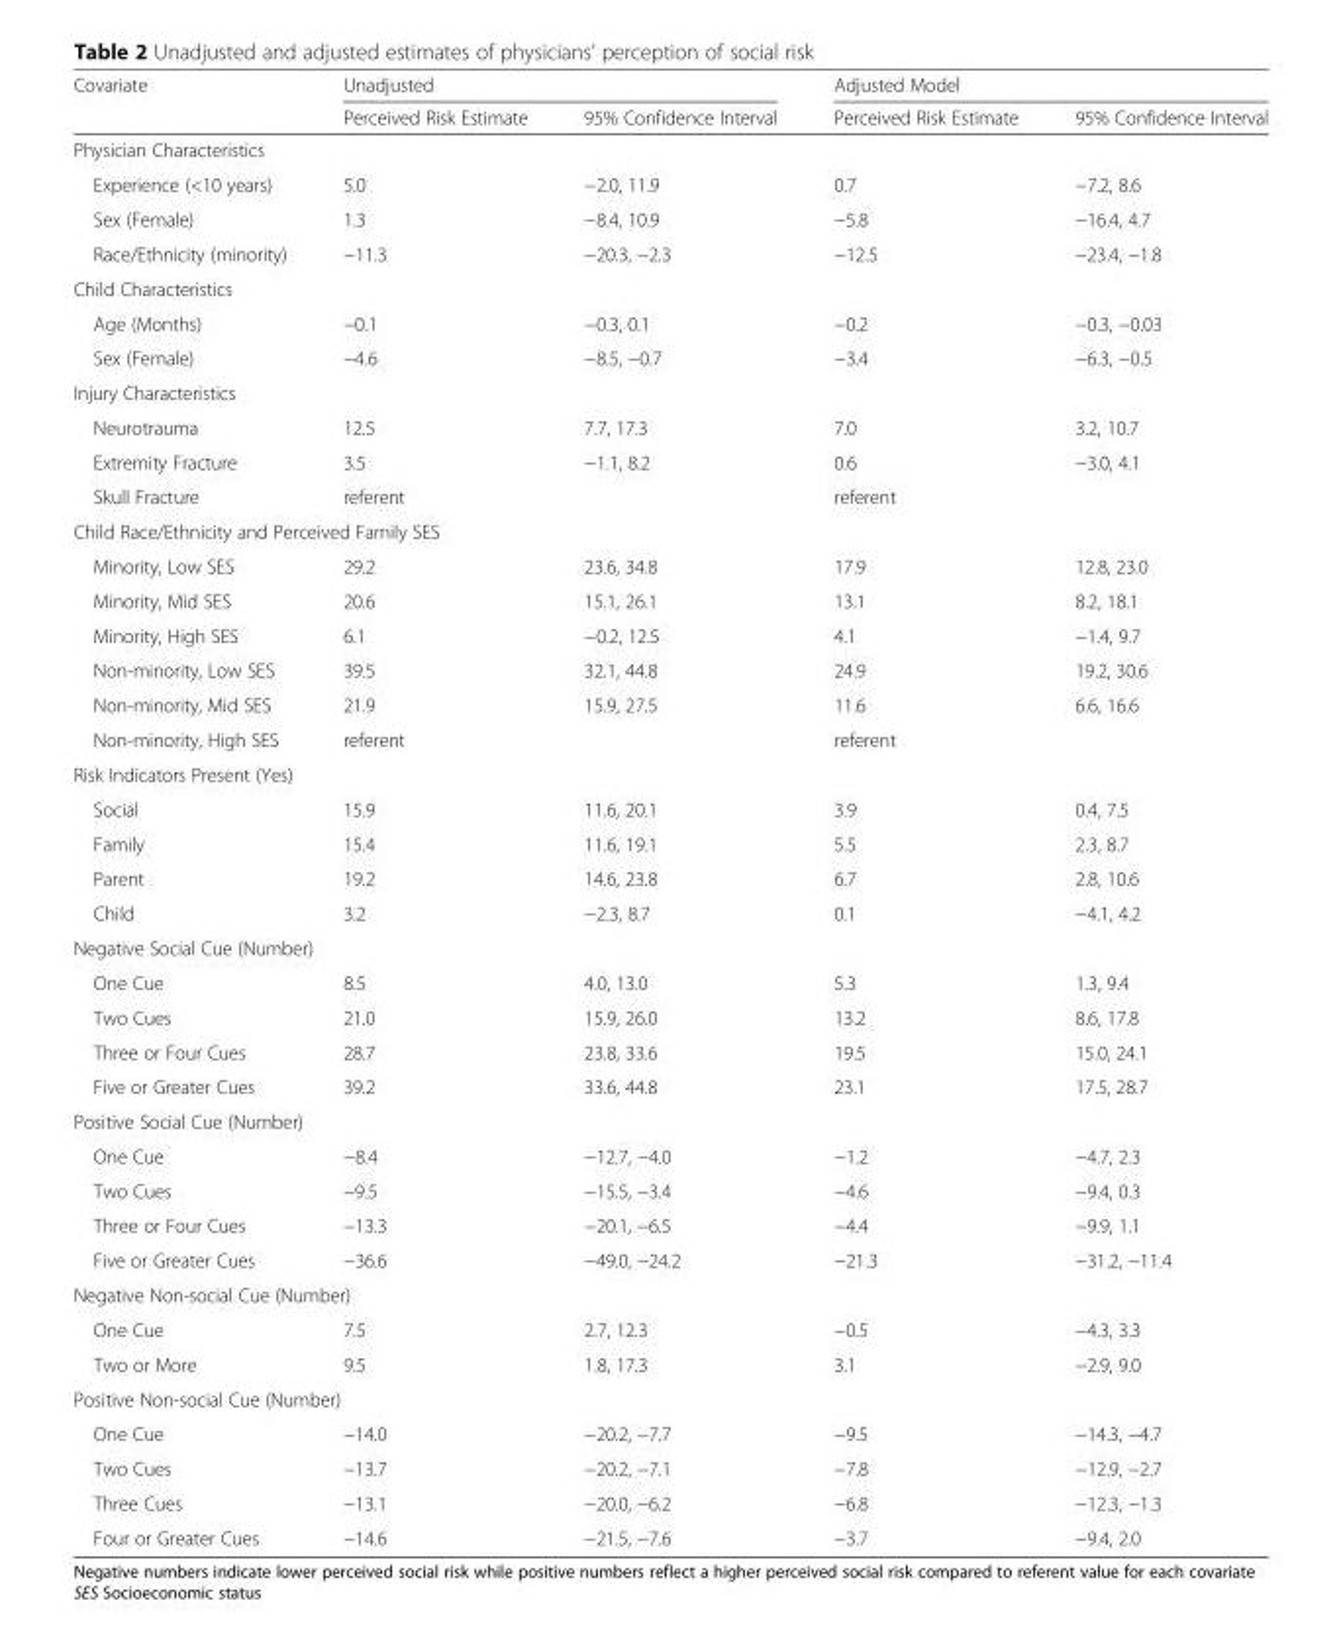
<table><thead><tr><td rowspan="2">Covariate</td><td colspan="2">Unadjusted</td><td colspan="2">Adjusted Model</td></tr><tr><td>Perceived Risk Estimate</td><td>95% Confidence Interval</td><td>Perceived Risk Estimate</td><td>95% Confidence Interval</td></tr></thead><tbody><tr><td colspan="5">Physician Characteristics</td></tr><tr><td>Experience (&lt;10 years)</td><td>5.0</td><td>−2.0, 11.9</td><td>0.7</td><td>−7.2, 8.6</td></tr><tr><td>Sex (Female)</td><td>1.3</td><td>−8.4, 10.9</td><td>−5.8</td><td>−16.4, 4.7</td></tr><tr><td>Race/Ethnicity (minority)</td><td>−11.3</td><td>−20.3, −2.3</td><td>−12.5</td><td>−23.4, −1.8</td></tr><tr><td colspan="5">Child Characteristics</td></tr><tr><td>Age (Months)</td><td>−0.1</td><td>−0.3, 0.1</td><td>−0.2</td><td>−0.3, −0.03</td></tr><tr><td>Sex (Female)</td><td>−4.6</td><td>−8.5, −0.7</td><td>−3.4</td><td>−6.3, −0.5</td></tr><tr><td colspan="5">Injury Characteristics</td></tr><tr><td>Neurotrauma</td><td>12.5</td><td>7.7, 17.3</td><td>7.0</td><td>3.2, 10.7</td></tr><tr><td>Extremity Fracture</td><td>3.5</td><td>−1.1, 8.2</td><td>0.6</td><td>−3.0, 4.1</td></tr><tr><td>Skull Fracture</td><td colspan="2">referent</td><td colspan="2">referent</td></tr><tr><td colspan="5">Child Race/Ethnicity and Perceived Family SES</td></tr><tr><td>Minority, Low SES</td><td>29.2</td><td>23.6, 34.8</td><td>17.9</td><td>12.8, 23.0</td></tr><tr><td>Minority, Mid SES</td><td>20.6</td><td>15.1, 26.1</td><td>13.1</td><td>8.2, 18.1</td></tr><tr><td>Minority, High SES</td><td>6.1</td><td>−0.2, 12.5</td><td>4.1</td><td>−1.4, 9.7</td></tr><tr><td>Non-minority, Low SES</td><td>39.5</td><td>32.1, 44.8</td><td>24.9</td><td>19.2, 30.6</td></tr><tr><td>Non-minority, Mid SES</td><td>21.9</td><td>15.9, 27.5</td><td>11.6</td><td>6.6, 16.6</td></tr><tr><td>Non-minority, High SES</td><td colspan="2">referent</td><td colspan="2">referent</td></tr><tr><td colspan="5">Risk Indicators Present (Yes)</td></tr><tr><td>Social</td><td>15.9</td><td>11.6, 20.1</td><td>3.9</td><td>0.4, 7.5</td></tr><tr><td>Family</td><td>15.4</td><td>11.6, 19.1</td><td>5.5</td><td>2.3, 8.7</td></tr><tr><td>Parent</td><td>19.2</td><td>14.6, 23.8</td><td>6.7</td><td>2.8, 10.6</td></tr><tr><td>Child</td><td>3.2</td><td>−2.3, 8.7</td><td>0.1</td><td>−4.1, 4.2</td></tr><tr><td colspan="5">Negative Social Cue (Number)</td></tr><tr><td>One Cue</td><td>8.5</td><td>4.0, 13.0</td><td>5.3</td><td>1.3, 9.4</td></tr><tr><td>Two Cues</td><td>21.0</td><td>15.9, 26.0</td><td>13.2</td><td>8.6, 17.8</td></tr><tr><td>Three or Four Cues</td><td>28.7</td><td>23.8, 33.6</td><td>19.5</td><td>15.0, 24.1</td></tr><tr><td>Five or Greater Cues</td><td>39.2</td><td>33.6, 44.8</td><td>23.1</td><td>17.5, 28.7</td></tr><tr><td colspan="5">Positive Social Cue (Number)</td></tr><tr><td>One Cue</td><td>−8.4</td><td>−12.7, −4.0</td><td>−1.2</td><td>−4.7, 2.3</td></tr><tr><td>Two Cues</td><td>−9.5</td><td>−15.5, −3.4</td><td>−4.6</td><td>−9.4, 0.3</td></tr><tr><td>Three or Four Cues</td><td>−13.3</td><td>−20.1, −6.5</td><td>−4.4</td><td>−9.9, 1.1</td></tr><tr><td>Five or Greater Cues</td><td>−36.6</td><td>−49.0, −24.2</td><td>−21.3</td><td>−31.2, −11.4</td></tr><tr><td colspan="5">Negative Non-social Cue (Number)</td></tr><tr><td>One Cue</td><td>7.5</td><td>2.7, 12.3</td><td>−0.5</td><td>−4.3, 3.3</td></tr><tr><td>Two or More</td><td>9.5</td><td>1.8, 17.3</td><td>3.1</td><td>−2.9, 9.0</td></tr><tr><td colspan="5">Positive Non-social Cue (Number)</td></tr><tr><td>One Cue</td><td>−14.0</td><td>−20.2, −7.7</td><td>−9.5</td><td>−14.3, −4.7</td></tr><tr><td>Two Cues</td><td>−13.7</td><td>−20.2, −7.1</td><td>−7.8</td><td>−12.9, −2.7</td></tr><tr><td>Three Cues</td><td>−13.1</td><td>−20.0, −6.2</td><td>−6.8</td><td>−12.3, −1.3</td></tr><tr><td>Four or Greater Cues</td><td>−14.6</td><td>−21.5, −7.6</td><td>−3.7</td><td>−9.4, 2.0</td></tr></tbody></table>